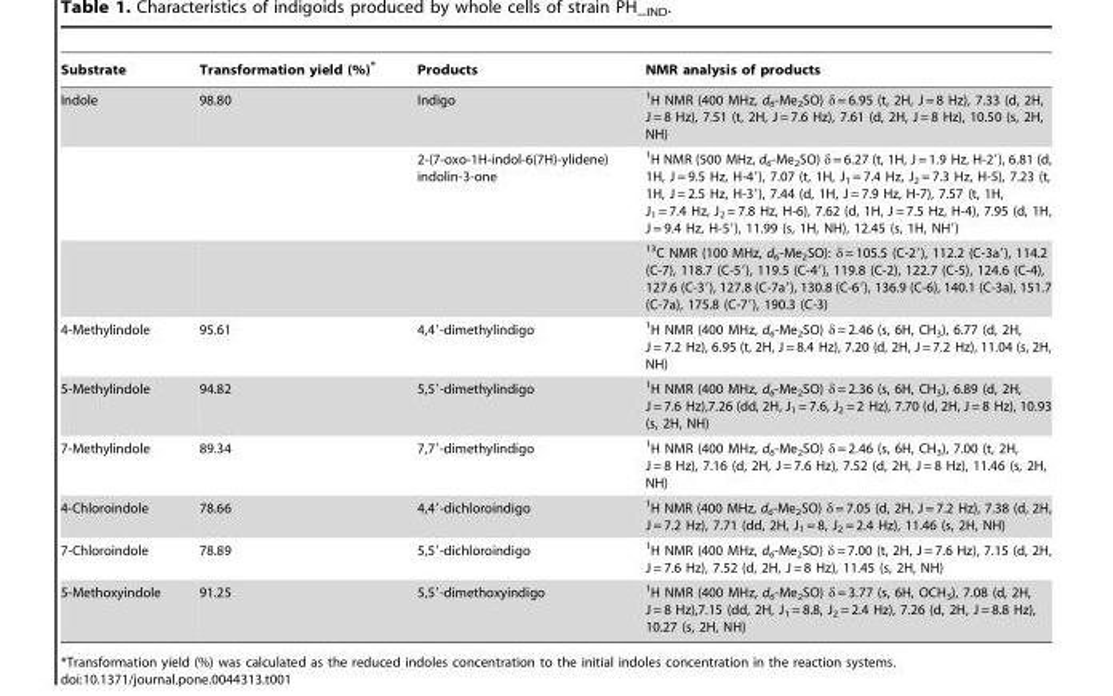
<table><thead><tr><td>Substrate</td><td>Transformation yield (%)*</td><td>Products</td><td>NMR analysis of products</td></tr></thead><tbody><tr><td rowspan="3">Indole</td><td>98.80</td><td>Indigo</td><td><sup>1</sup>H NMR (400 MHz, d<sub>6</sub>-Me<sub>2</sub>SO) δ = 6.95 (t, 2H, J = 8 Hz), 7.33 (d, 2H, J = 8 Hz), 7.51 (t, 2H, J = 7.6 Hz), 7.61 (d, 2H, J = 8 Hz), 10.50 (s, 2H, NH)</td></tr><tr><td></td><td>2-(7-oxo-1H-indol-6(7H)-ylidene) indolin-3-one</td><td><sup>1</sup>H NMR (500 MHz, d<sub>6</sub>-Me<sub>2</sub>SO) δ = 6.27 (t, 1H, J = 1.9 Hz, H-2′), 6.81 (d, 1H, J = 9.5 Hz, H-4′), 7.07 (t, 1H, J<sub>1</sub> = 7.4 Hz, J<sub>2</sub> = 7.3 Hz, H-5), 7.23 (t, 1H, J = 2.5 Hz, H-3′), 7.44 (d, 1H, J = 7.9 Hz, H-7), 7.57 (t, 1H, J<sub>1</sub> = 7.4 Hz, J<sub>2</sub> = 7.8 Hz, H-6), 7.62 (d, 1H, J = 7.5 Hz, H-4), 7.95 (d, 1H, J = 9.4 Hz, H-5′), 11.99 (s, 1H, NH), 12.45 (s, 1H, NH′)</td></tr><tr><td></td><td></td><td><sup>13</sup>C NMR (100 MHz, d<sub>6</sub>-Me<sub>2</sub>SO): δ = 105.5 (C-2′), 112.2 (C-3a′), 114.2 (C-7), 118.7 (C-5′), 119.5 (C-4′), 119.8 (C-2), 122.7 (C-5), 124.6 (C-4), 127.6 (C-3′), 127.8 (C-7a′), 130.8 (C-6′), 136.9 (C-6), 140.1 (C-3a), 151.7 (C-7a), 175.8 (C-7′), 190.3 (C-3)</td></tr><tr><td>4-Methylindole</td><td>95.61</td><td>4,4′-dimethylindigo</td><td><sup>1</sup>H NMR (400 MHz, d<sub>6</sub>-Me<sub>2</sub>SO) δ = 2.46 (s, 6H, CH<sub>3</sub>), 6.77 (d, 2H, J = 7.2 Hz), 6.95 (t, 2H, J = 8.4 Hz), 7.20 (d, 2H, J = 7.2 Hz), 11.04 (s, 2H, NH)</td></tr><tr><td>5-Methylindole</td><td>94.82</td><td>5,5′-dimethylindigo</td><td><sup>1</sup>H NMR (400 MHz, d<sub>6</sub>-Me<sub>2</sub>SO) δ = 2.36 (s, 6H, CH<sub>3</sub>), 6.89 (d, 2H, J = 7.6 Hz),7.26 (dd, 2H, J<sub>1</sub> = 7.6, J<sub>2</sub> = 2 Hz), 7.70 (d, 2H, J = 8 Hz), 10.93 (s, 2H, NH)</td></tr><tr><td>7-Methylindole</td><td>89.34</td><td>7,7′-dimethylindigo</td><td><sup>1</sup>H NMR (400 MHz, d<sub>6</sub>-Me<sub>2</sub>SO) δ = 2.46 (s, 6H, CH<sub>3</sub>), 7.00 (t, 2H, J = 8 Hz), 7.16 (d, 2H, J = 7.6 Hz), 7.52 (d, 2H, J = 8 Hz), 11.46 (s, 2H, NH)</td></tr><tr><td>4-Chloroindole</td><td>78.66</td><td>4,4′-dichloroindigo</td><td><sup>1</sup>H NMR (400 MHz, d<sub>6</sub>-Me<sub>2</sub>SO) δ = 7.05 (d, 2H, J = 7.2 Hz), 7.38 (d, 2H, J = 7.2 Hz), 7.71 (dd, 2H, J<sub>1</sub> = 8, J<sub>2</sub> = 2.4 Hz), 11.46 (s, 2H, NH)</td></tr><tr><td>7-Chloroindole</td><td>78.89</td><td>5,5′-dichloroindigo</td><td><sup>1</sup>H NMR (400 MHz, d<sub>6</sub>-Me<sub>2</sub>SO) δ = 7.00 (t, 2H, J = 7.6 Hz), 7.15 (d, 2H, J = 7.6 Hz), 7.52 (d, 2H, J = 8 Hz), 11.45 (s, 2H, NH)</td></tr><tr><td>5-Methoxyindole</td><td>91.25</td><td>5,5′-dimethoxyindigo</td><td><sup>1</sup>H NMR (400 MHz, d<sub>6</sub>-Me<sub>2</sub>SO) δ = 3.77 (s, 6H, OCH<sub>3</sub>), 7.08 (d, 2H, J = 8 Hz),7.15 (dd, 2H, J<sub>1</sub> = 8.8, J<sub>2</sub> = 2.4 Hz), 7.26 (d, 2H, J = 8.8 Hz), 10.27 (s, 2H, NH)</td></tr></tbody></table>